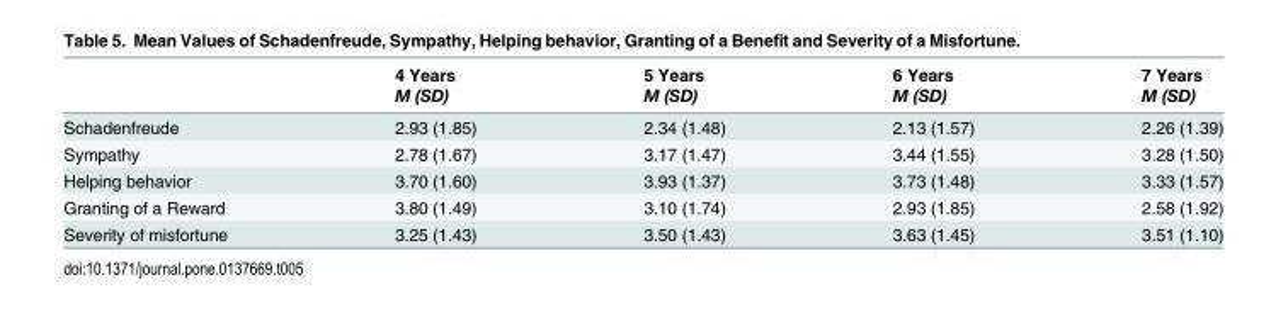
<table><thead><tr><td rowspan="2"></td><td rowspan="2">4 Years M (SD)</td><td rowspan="2">5 Years M (SD)</td><td rowspan="2">6 Years M (SD)</td><td rowspan="2">7 Years M (SD)</td></tr><tr></tr></thead><tbody><tr><td>Schadenfreude</td><td>2.93 (1.85)</td><td>2.34 (1.48)</td><td>2.13 (1.57)</td><td>2.26 (1.39)</td></tr><tr><td>Sympathy</td><td>2.78 (1.67)</td><td>3.17 (1.47)</td><td>3.44 (1.55)</td><td>3.28 (1.50)</td></tr><tr><td>Helping behavior</td><td>3.70 (1.60)</td><td>3.93 (1.37)</td><td>3.73 (1.48)</td><td>3.33 (1.57)</td></tr><tr><td>Granting of a Reward</td><td>3.80 (1.49)</td><td>3.10 (1.74)</td><td>2.93 (1.85)</td><td>2.58 (1.92)</td></tr><tr><td>Severity of misfortune</td><td>3.25 (1.43)</td><td>3.50 (1.43)</td><td>3.63 (1.45)</td><td>3.51 (1.10)</td></tr></tbody></table>